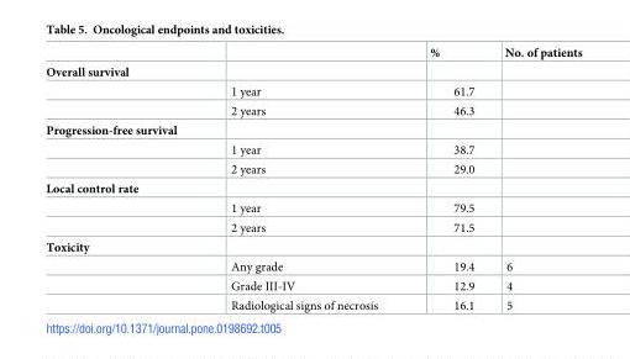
<table><thead><tr><td></td><td></td><td>%</td><td>No. of patients</td></tr></thead><tbody><tr><td colspan="4">Overall survival</td></tr><tr><td></td><td>1 year</td><td>61.7</td><td></td></tr><tr><td></td><td>2 years</td><td>46.3</td><td></td></tr><tr><td colspan="4">Progression-free survival</td></tr><tr><td></td><td>1 year</td><td>38.7</td><td></td></tr><tr><td></td><td>2 years</td><td>29.0</td><td></td></tr><tr><td colspan="4">Local control rate</td></tr><tr><td></td><td>1 year</td><td>79.5</td><td></td></tr><tr><td></td><td>2 years</td><td>71.5</td><td></td></tr><tr><td colspan="4">Toxicity</td></tr><tr><td></td><td>Any grade</td><td>19.4</td><td>6</td></tr><tr><td></td><td>Grade III-IV</td><td>12.9</td><td>4</td></tr><tr><td></td><td>Radiological signs of necrosis</td><td>16.1</td><td>5</td></tr></tbody></table>